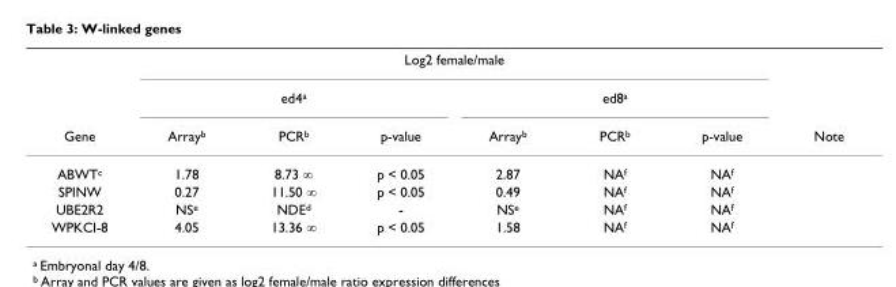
<table><thead><tr><td rowspan="3">Gene</td><td colspan="6">Log2 female/male</td><td rowspan="3">Note</td></tr><tr><td colspan="3">ed4a</td><td colspan="3">ed8a</td></tr><tr><td>Arrayb</td><td>PCRb</td><td>p-value</td><td>Arrayb</td><td>PCRb</td><td>p-value</td></tr></thead><tbody><tr><td>ABWTc</td><td>1.78</td><td>8.73 ∞</td><td>p &lt; 0.05</td><td>2.87</td><td>NAf</td><td>NAf</td><td></td></tr><tr><td>SPINW</td><td>0.27</td><td>11.50 ∞</td><td>p &lt; 0.05</td><td>0.49</td><td>NAf</td><td>NAf</td><td></td></tr><tr><td>UBE2R2</td><td>NSe</td><td>NDEd</td><td>-</td><td>NSe</td><td>NAf</td><td>NAf</td><td></td></tr><tr><td>WPKCI-8</td><td>4.05</td><td>13.36 ∞</td><td>p &lt; 0.05</td><td>1.58</td><td>NAf</td><td>NAf</td><td></td></tr></tbody></table>